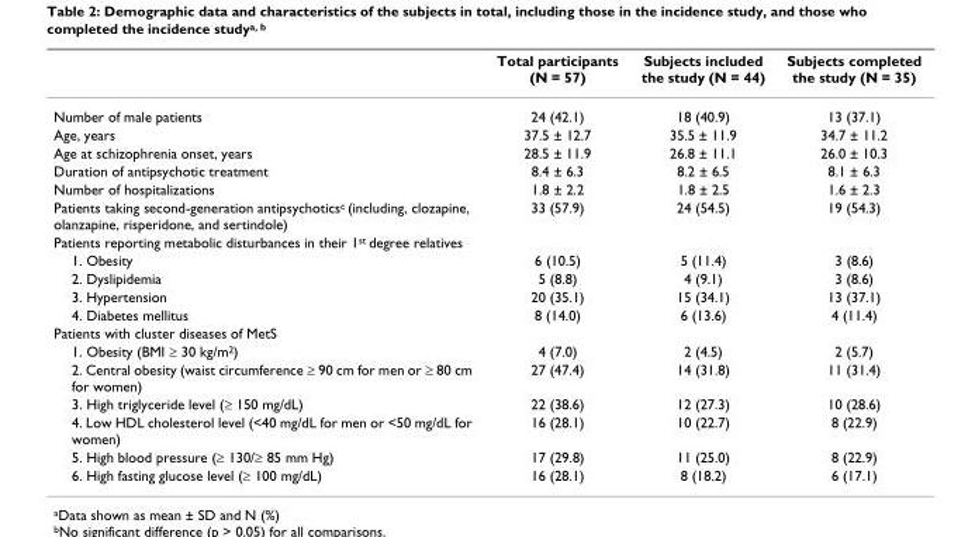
<table><thead><tr><td></td><td>Total participants (N = 57)</td><td>Subjects included the study (N = 44)</td><td>Subjects completed the study (N = 35)</td></tr></thead><tbody><tr><td>Number of male patients</td><td>24 (42.1)</td><td>18 (40.9)</td><td>13 (37.1)</td></tr><tr><td>Age, years</td><td>37.5 ± 12.7</td><td>35.5 ± 11.9</td><td>34.7 ± 11.2</td></tr><tr><td>Age at schizophrenia onset, years</td><td>28.5 ± 11.9</td><td>26.8 ± 11.1</td><td>26.0 ± 10.3</td></tr><tr><td>Duration of antipsychotic treatment</td><td>8.4 ± 6.3</td><td>8.2 ± 6.5</td><td>8.1 ± 6.3</td></tr><tr><td>Number of hospitalizations</td><td>1.8 ± 2.2</td><td>1.8 ± 2.5</td><td>1.6 ± 2.3</td></tr><tr><td>Patients taking second-generation antipsychotics<sup>c</sup> (including, clozapine, olanzapine, risperidone, and sertindole)</td><td>33 (57.9)</td><td>24 (54.5)</td><td>19 (54.3)</td></tr><tr><td colspan="4">Patients reporting metabolic disturbances in their 1<sup>st</sup> degree relatives</td></tr><tr><td>1. Obesity</td><td>6 (10.5)</td><td>5 (11.4)</td><td>3 (8.6)</td></tr><tr><td>2. Dyslipidemia</td><td>5 (8.8)</td><td>4 (9.1)</td><td>3 (8.6)</td></tr><tr><td>3. Hypertension</td><td>20 (35.1)</td><td>15 (34.1)</td><td>13 (37.1)</td></tr><tr><td>4. Diabetes mellitus</td><td>8 (14.0)</td><td>6 (13.6)</td><td>4 (11.4)</td></tr><tr><td colspan="4">Patients with cluster diseases of MetS</td></tr><tr><td>1. Obesity (BMI ≥ 30 kg/m<sup>2</sup>)</td><td>4 (7.0)</td><td>2 (4.5)</td><td>2 (5.7)</td></tr><tr><td>2. Central obesity (waist circumference ≥ 90 cm for men or ≥ 80 cm for women)</td><td>27 (47.4)</td><td>14 (31.8)</td><td>11 (31.4)</td></tr><tr><td>3. High triglyceride level (≥ 150 mg/dL)</td><td>22 (38.6)</td><td>12 (27.3)</td><td>10 (28.6)</td></tr><tr><td>4. Low HDL cholesterol level (&lt;40 mg/dL for men or &lt;50 mg/dL for women)</td><td>16 (28.1)</td><td>10 (22.7)</td><td>8 (22.9)</td></tr><tr><td>5. High blood pressure (≥ 130/≥ 85 mm Hg)</td><td>17 (29.8)</td><td>11 (25.0)</td><td>8 (22.9)</td></tr><tr><td>6. High fasting glucose level (≥ 100 mg/dL)</td><td>16 (28.1)</td><td>8 (18.2)</td><td>6 (17.1)</td></tr></tbody></table>